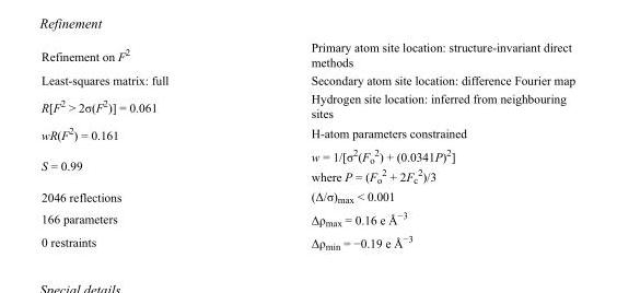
<table><tbody><tr><td>Refinement on F<sup>2</sup></td><td>Primary atom site location: structure-invariant direct methods</td></tr><tr><td>Least-squares matrix: full</td><td>Secondary atom site location: difference Fourier map</td></tr><tr><td>R[F<sup>2</sup> &gt; 2σ(F<sup>2</sup>)] = 0.061</td><td>Hydrogen site location: inferred from neighbouring sites</td></tr><tr><td>wR(F<sup>2</sup>) = 0.161</td><td>H-atom parameters constrained</td></tr><tr><td>S = 0.99</td><td>w = 1/[σ<sup>2</sup>(F<sub>o</sub> <sup>2</sup>) + (0.0341P)<sup>2</sup>] where P = (F<sub>o</sub> <sup>2</sup> + 2F<sub>c</sub> <sup>2</sup>)/3</td></tr><tr><td>2046 reflections</td><td>(Δ/σ)<sub>max</sub> &lt; 0.001</td></tr><tr><td>166 parameters</td><td>Δρ<sub>max</sub> = 0.16 e Å<sup>−3</sup></td></tr><tr><td>0 restraints</td><td>Δρ<sub>min</sub> = −0.19 e Å<sup>−3</sup></td></tr></tbody></table>